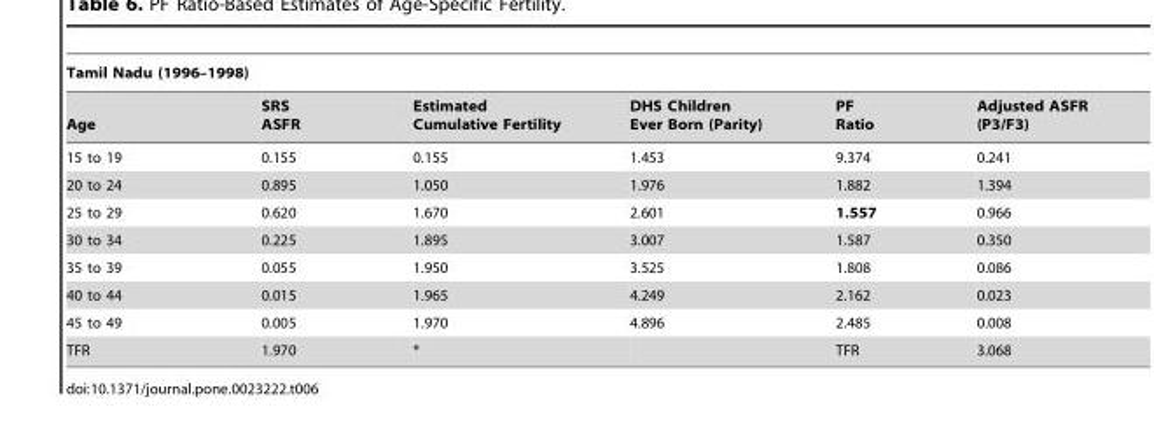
<table><thead><tr><td colspan="6">Tamil Nadu (1996–1998)</td></tr><tr><td>Age</td><td>SRS ASFR</td><td>Estimated Cumulative Fertility</td><td>DHS Children Ever Born (Parity)</td><td>PF Ratio</td><td>Adjusted ASFR (P3/F3)</td></tr></thead><tbody><tr><td>15 to 19</td><td>0.155</td><td>0.155</td><td>1.453</td><td>9.374</td><td>0.241</td></tr><tr><td>20 to 24</td><td>0.895</td><td>1.050</td><td>1.976</td><td>1.882</td><td>1.394</td></tr><tr><td>25 to 29</td><td>0.620</td><td>1.670</td><td>2.601</td><td>1.557</td><td>0.966</td></tr><tr><td>30 to 34</td><td>0.225</td><td>1.895</td><td>3.007</td><td>1.587</td><td>0.350</td></tr><tr><td>35 to 39</td><td>0.055</td><td>1.950</td><td>3.525</td><td>1.808</td><td>0.086</td></tr><tr><td>40 to 44</td><td>0.015</td><td>1.965</td><td>4.249</td><td>2.162</td><td>0.023</td></tr><tr><td>45 to 49</td><td>0.005</td><td>1.970</td><td>4.896</td><td>2.485</td><td>0.008</td></tr><tr><td>TFR</td><td>1.970</td><td>*</td><td></td><td>TFR</td><td>3.068</td></tr></tbody></table>